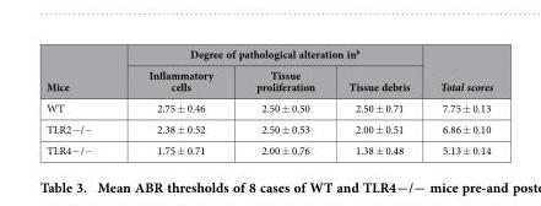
<table><thead><tr><td rowspan="2">Mice</td><td colspan="3">Degree of pathological alteration in<sup>b</sup></td><td rowspan="2">Total scores</td></tr><tr><td>Inflammatory cells</td><td>Tissue proliferation</td><td>Tissue debris</td></tr></thead><tbody><tr><td>WT</td><td>2.75 ± 0.46</td><td>2.50 ± 0.50</td><td>2.50 ± 0.71</td><td>7.75 ± 0.13</td></tr><tr><td>TLR2− /−</td><td>2.38 ± 0.52</td><td>2.50 ± 0.53</td><td>2.00 ± 0.51</td><td>6.86 ± 0.10</td></tr><tr><td>TLR4− /−</td><td>1.75 ± 0.71</td><td>2.00 ± 0.76</td><td>1.38 ± 0.48</td><td>5.13 ± 0.14</td></tr></tbody></table>